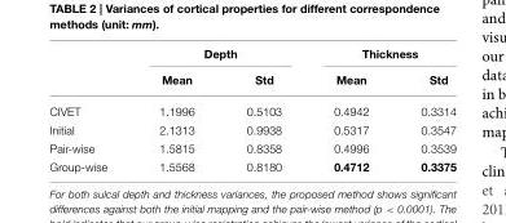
<table><thead><tr><td rowspan="2"></td><td colspan="2">Depth</td><td colspan="2">Thickness</td></tr><tr><td>Mean</td><td>Std</td><td>Mean</td><td>Std</td></tr></thead><tbody><tr><td>CIVET</td><td>1.1996</td><td>0.5103</td><td>0.4942</td><td>0.3314</td></tr><tr><td>Initial</td><td>2.1313</td><td>0.9938</td><td>0.5317</td><td>0.3547</td></tr><tr><td>Pair-wise</td><td>1.5815</td><td>0.8358</td><td>0.4996</td><td>0.3539</td></tr><tr><td>Group-wise</td><td>1.5568</td><td>0.8180</td><td>0.4712</td><td>0.3375</td></tr></tbody></table>